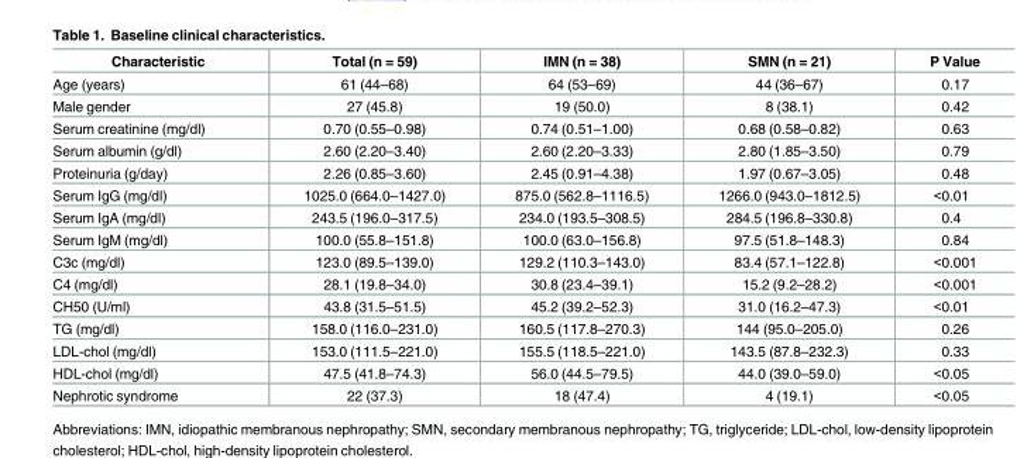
<table><thead><tr><td>Characteristic</td><td>Total (n = 59)</td><td>IMN (n = 38)</td><td>SMN (n = 21)</td><td>P Value</td></tr></thead><tbody><tr><td>Age (years)</td><td>61 (44–68)</td><td>64 (53–69)</td><td>44 (36–67)</td><td>0.17</td></tr><tr><td>Male gender</td><td>27 (45.8)</td><td>19 (50.0)</td><td>8 (38.1)</td><td>0.42</td></tr><tr><td>Serum creatinine (mg/dl)</td><td>0.70 (0.55–0.98)</td><td>0.74 (0.51–1.00)</td><td>0.68 (0.58–0.82)</td><td>0.63</td></tr><tr><td>Serum albumin (g/dl)</td><td>2.60 (2.20–3.40)</td><td>2.60 (2.20–3.33)</td><td>2.80 (1.85–3.50)</td><td>0.79</td></tr><tr><td>Proteinuria (g/day)</td><td>2.26 (0.85–3.60)</td><td>2.45 (0.91–4.38)</td><td>1.97 (0.67–3.05)</td><td>0.48</td></tr><tr><td>Serum IgG (mg/dl)</td><td>1025.0 (664.0–1427.0)</td><td>875.0 (562.8–1116.5)</td><td>1266.0 (943.0–1812.5)</td><td>&lt;0.01</td></tr><tr><td>Serum IgA (mg/dl)</td><td>243.5 (196.0–317.5)</td><td>234.0 (193.5–308.5)</td><td>284.5 (196.8–330.8)</td><td>0.4</td></tr><tr><td>Serum IgM (mg/dl)</td><td>100.0 (55.8–151.8)</td><td>100.0 (63.0–156.8)</td><td>97.5 (51.8–148.3)</td><td>0.84</td></tr><tr><td>C3c (mg/dl)</td><td>123.0 (89.5–139.0)</td><td>129.2 (110.3–143.0)</td><td>83.4 (57.1–122.8)</td><td>&lt;0.001</td></tr><tr><td>C4 (mg/dl)</td><td>28.1 (19.8–34.0)</td><td>30.8 (23.4–39.1)</td><td>15.2 (9.2–28.2)</td><td>&lt;0.001</td></tr><tr><td>CH50 (U/ml)</td><td>43.8 (31.5–51.5)</td><td>45.2 (39.2–52.3)</td><td>31.0 (16.2–47.3)</td><td>&lt;0.01</td></tr><tr><td>TG (mg/dl)</td><td>158.0 (116.0–231.0)</td><td>160.5 (117.8–270.3)</td><td>144 (95.0–205.0)</td><td>0.26</td></tr><tr><td>LDL-chol (mg/dl)</td><td>153.0 (111.5–221.0)</td><td>155.5 (118.5–221.0)</td><td>143.5 (87.8–232.3)</td><td>0.33</td></tr><tr><td>HDL-chol (mg/dl)</td><td>47.5 (41.8–74.3)</td><td>56.0 (44.5–79.5)</td><td>44.0 (39.0–59.0)</td><td>&lt;0.05</td></tr><tr><td>Nephrotic syndrome</td><td>22 (37.3)</td><td>18 (47.4)</td><td>4 (19.1)</td><td>&lt;0.05</td></tr></tbody></table>